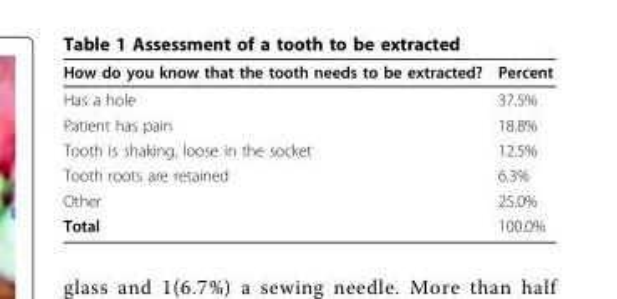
<table><thead><tr><td>How do you know that the tooth needs to be extracted?</td><td>Percent</td></tr></thead><tbody><tr><td>Has a hole</td><td>37.5%</td></tr><tr><td>Patient has pain</td><td>18.8%</td></tr><tr><td>Tooth is shaking, loose in the socket</td><td>12.5%</td></tr><tr><td>Tooth roots are retained</td><td>6.3%</td></tr><tr><td>Other</td><td>25.0%</td></tr><tr><td>Total</td><td>100.0%</td></tr></tbody></table>